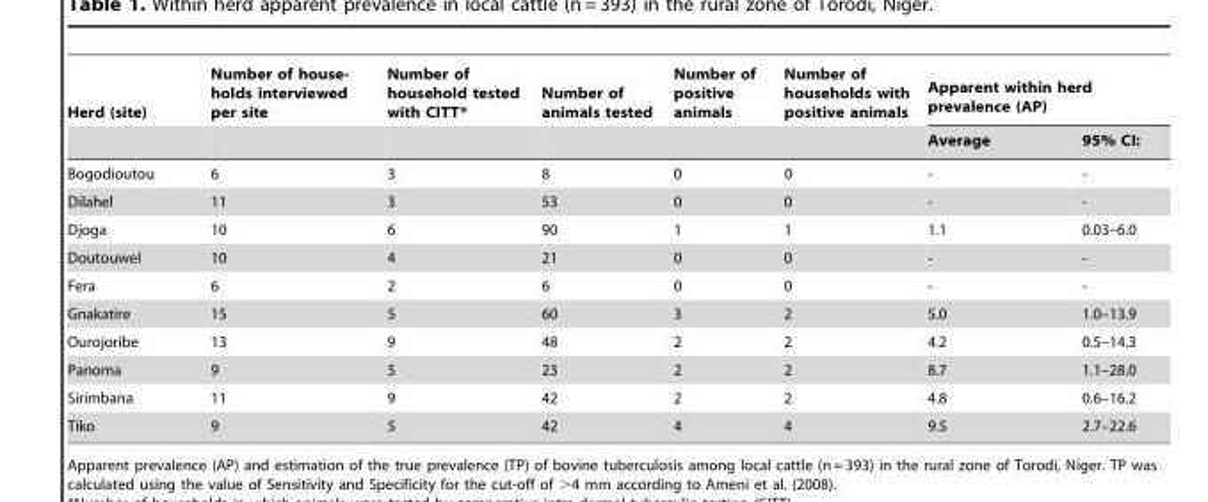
<table><thead><tr><td rowspan="2">Herd (site)</td><td rowspan="2">Number of house- holds interviewed per site</td><td rowspan="2">Number of household tested with CITT*</td><td rowspan="2">Number of animals tested</td><td rowspan="2">Number of positive animals</td><td rowspan="2">Number of households with positive animals</td><td colspan="2">Apparent within herd prevalence (AP)</td></tr><tr><td>Average</td><td>95% CI:</td></tr></thead><tbody><tr><td>Bogodioutou</td><td>6</td><td>3</td><td>8</td><td>0</td><td>0</td><td>-</td><td>-</td></tr><tr><td>Dilahel</td><td>11</td><td>3</td><td>53</td><td>0</td><td>0</td><td>-</td><td>-</td></tr><tr><td>Djoga</td><td>10</td><td>6</td><td>90</td><td>1</td><td>1</td><td>1.1</td><td>0.03–6.0</td></tr><tr><td>Doutouwel</td><td>10</td><td>4</td><td>21</td><td>0</td><td>0</td><td>-</td><td>-</td></tr><tr><td>Fera</td><td>6</td><td>2</td><td>6</td><td>0</td><td>0</td><td>-</td><td>-</td></tr><tr><td>Gnakatire</td><td>15</td><td>5</td><td>60</td><td>3</td><td>2</td><td>5.0</td><td>1.0–13.9</td></tr><tr><td>Ourojoribe</td><td>13</td><td>9</td><td>48</td><td>2</td><td>2</td><td>4.2</td><td>0.5–14.3</td></tr><tr><td>Panoma</td><td>9</td><td>5</td><td>23</td><td>2</td><td>2</td><td>8.7</td><td>1.1–28.0</td></tr><tr><td>Sirimbana</td><td>11</td><td>9</td><td>42</td><td>2</td><td>2</td><td>4.8</td><td>0.6–16.2</td></tr><tr><td>Tiko</td><td>9</td><td>5</td><td>42</td><td>4</td><td>4</td><td>9.5</td><td>2.7–22.6</td></tr></tbody></table>